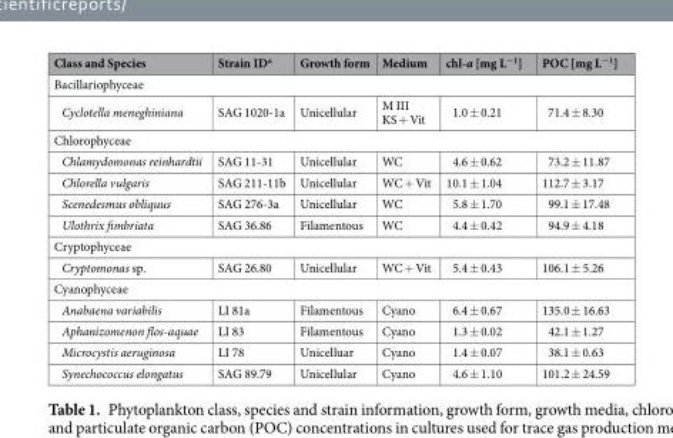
<table><thead><tr><td>Class and Species</td><td>Strain ID<sup>a</sup></td><td>Growth form</td><td>Medium</td><td>chl-a [mg L<sup>−1</sup>]</td><td>POC [mg L<sup>−1</sup>]</td></tr></thead><tbody><tr><td colspan="6">Bacillariophyceae</td></tr><tr><td>Cyclotella meneghiniana</td><td>SAG 1020-1a</td><td>Unicellular</td><td>M III KS + Vit</td><td>1.0 ± 0.21</td><td>71.4 ± 8.30</td></tr><tr><td colspan="6">Chlorophyceae</td></tr><tr><td>Chlamydomonas reinhardtii</td><td>SAG 11-31</td><td>Unicellular</td><td>WC</td><td>4.6 ± 0.62</td><td>73.2 ± 11.87</td></tr><tr><td>Chlorella vulgaris</td><td>SAG 211-11b</td><td>Unicellular</td><td>WC + Vit</td><td>10.1 ± 1.04</td><td>112.7 ± 3.17</td></tr><tr><td>Scenedesmus obliquus</td><td>SAG 276-3a</td><td>Unicellular</td><td>WC</td><td>5.8 ± 1.70</td><td>99.1 ± 17.48</td></tr><tr><td>Ulothrix fimbriata</td><td>SAG 36.86</td><td>Filamentous</td><td>WC</td><td>4.4 ± 0.42</td><td>94.9 ± 4.18</td></tr><tr><td colspan="6">Cryptophyceae</td></tr><tr><td>Cryptomonas sp.</td><td>SAG 26.80</td><td>Unicellular</td><td>WC + Vit</td><td>5.4 ± 0.43</td><td>106.1 ± 5.26</td></tr><tr><td colspan="6">Cyanophyceae</td></tr><tr><td>Anabaena variabilis</td><td>LI 81a</td><td>Filamentous</td><td>Cyano</td><td>6.4 ± 0.67</td><td>135.0 ± 16.63</td></tr><tr><td>Aphanizomenon flos-aquae</td><td>LI 83</td><td>Filamentous</td><td>Cyano</td><td>1.3 ± 0.02</td><td>42.1 ± 1.27</td></tr><tr><td>Microcystis aeruginosa</td><td>LI 78</td><td>Unicelluar</td><td>Cyano</td><td>1.4 ± 0.07</td><td>38.1 ± 0.63</td></tr><tr><td>Synechococcus elongatus</td><td>SAG 89.79</td><td>Unicellular</td><td>Cyano</td><td>4.6 ± 1.10</td><td>101.2 ± 24.59</td></tr></tbody></table>